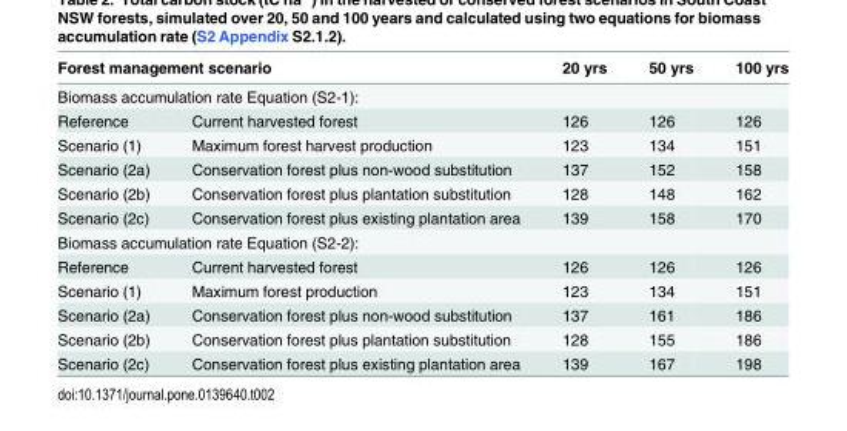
<table><thead><tr><td colspan="2">Forest management scenario</td><td>20 yrs</td><td>50 yrs</td><td>100 yrs</td></tr><tr><td colspan="5">Biomass accumulation rate Equation (S2-1):</td></tr><tr><td>Reference</td><td>Current harvested forest</td><td>126</td><td>126</td><td>126</td></tr></thead><tbody><tr><td>Scenario (1)</td><td>Maximum forest harvest production</td><td>123</td><td>134</td><td>151</td></tr><tr><td>Scenario (2a)</td><td>Conservation forest plus non-wood substitution</td><td>137</td><td>152</td><td>158</td></tr><tr><td>Scenario (2b)</td><td>Conservation forest plus plantation substitution</td><td>128</td><td>148</td><td>162</td></tr><tr><td>Scenario (2c)</td><td>Conservation forest plus existing plantation area</td><td>139</td><td>158</td><td>170</td></tr><tr><td colspan="5">Biomass accumulation rate Equation (S2-2):</td></tr><tr><td>Reference</td><td>Current harvested forest</td><td>126</td><td>126</td><td>126</td></tr><tr><td>Scenario (1)</td><td>Maximum forest production</td><td>123</td><td>134</td><td>151</td></tr><tr><td>Scenario (2a)</td><td>Conservation forest plus non-wood substitution</td><td>137</td><td>161</td><td>186</td></tr><tr><td>Scenario (2b)</td><td>Conservation forest plus plantation substitution</td><td>128</td><td>155</td><td>186</td></tr><tr><td>Scenario (2c)</td><td>Conservation forest plus existing plantation area</td><td>139</td><td>167</td><td>198</td></tr></tbody></table>